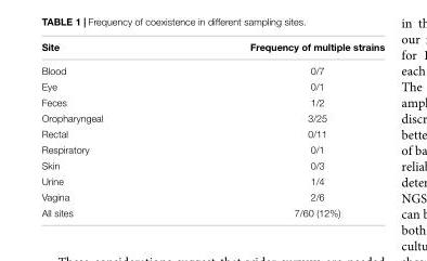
<table><thead><tr><td>Site</td><td>Frequency of multiple strains</td></tr></thead><tbody><tr><td>Blood</td><td>0/7</td></tr><tr><td>Eye</td><td>0/1</td></tr><tr><td>Feces</td><td>1/2</td></tr><tr><td>Oropharyngeal</td><td>3/25</td></tr><tr><td>Rectal</td><td>0/11</td></tr><tr><td>Respiratory</td><td>0/1</td></tr><tr><td>Skin</td><td>0/3</td></tr><tr><td>Urine</td><td>1/4</td></tr><tr><td>Vagina</td><td>2/6</td></tr><tr><td>All sites</td><td>7/60 (12%)</td></tr></tbody></table>